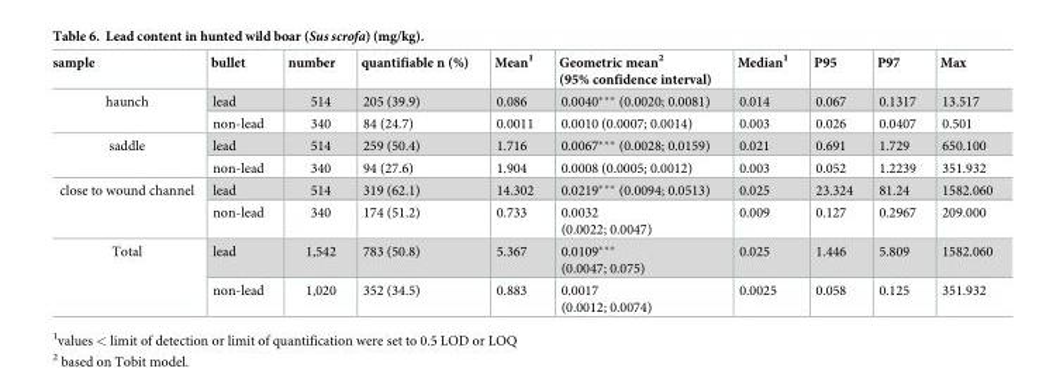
<table><thead><tr><td>sample</td><td>bullet</td><td>number</td><td>quantifiable n (%)</td><td>Mean<sup>1</sup></td><td>Geometric mean<sup>2</sup> (95% confidence interval)</td><td>Median<sup>1</sup></td><td>P95</td><td>P97</td><td>Max</td></tr></thead><tbody><tr><td rowspan="2">haunch</td><td>lead</td><td>514</td><td>205 (39.9)</td><td>0.086</td><td>0.0040*** (0.0020; 0.0081)</td><td>0.014</td><td>0.067</td><td>0.1317</td><td>13.517</td></tr><tr><td>non-lead</td><td>340</td><td>84 (24.7)</td><td>0.0011</td><td>0.0010 (0.0007; 0.0014)</td><td>0.003</td><td>0.026</td><td>0.0407</td><td>0.501</td></tr><tr><td rowspan="2">saddle</td><td>lead</td><td>514</td><td>259 (50.4)</td><td>1.716</td><td>0.0067*** (0.0028; 0.0159)</td><td>0.021</td><td>0.691</td><td>1.729</td><td>650.100</td></tr><tr><td>non-lead</td><td>340</td><td>94 (27.6)</td><td>1.904</td><td>0.0008 (0.0005; 0.0012)</td><td>0.003</td><td>0.052</td><td>1.2239</td><td>351.932</td></tr><tr><td rowspan="2">close to wound channel</td><td>lead</td><td>514</td><td>319 (62.1)</td><td>14.302</td><td>0.0219*** (0.0094; 0.0513)</td><td>0.025</td><td>23.324</td><td>81.24</td><td>1582.060</td></tr><tr><td>non-lead</td><td>340</td><td>174 (51.2)</td><td>0.733</td><td>0.0032 (0.0022; 0.0047)</td><td>0.009</td><td>0.127</td><td>0.2967</td><td>209.000</td></tr><tr><td rowspan="2">Total</td><td>lead</td><td>1,542</td><td>783 (50.8)</td><td>5.367</td><td>0.0109*** (0.0047; 0.075)</td><td>0.025</td><td>1.446</td><td>5.809</td><td>1582.060</td></tr><tr><td>non-lead</td><td>1,020</td><td>352 (34.5)</td><td>0.883</td><td>0.0017 (0.0012; 0.0074)</td><td>0.0025</td><td>0.058</td><td>0.125</td><td>351.932</td></tr></tbody></table>